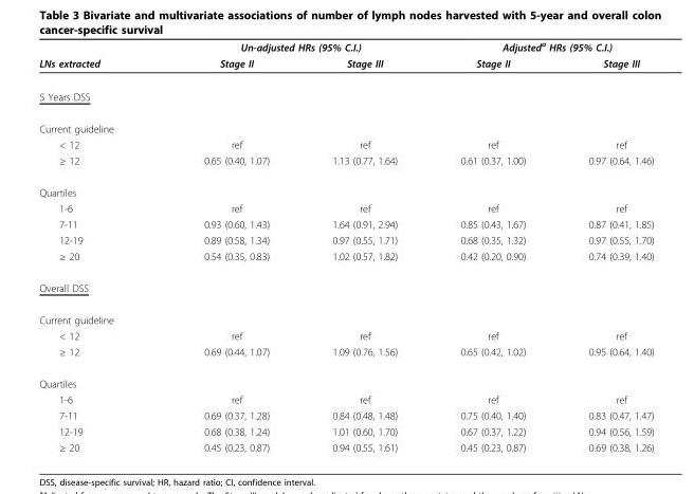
<table><thead><tr><td rowspan="2">LNs extracted</td><td colspan="2">Un-adjusted HRs (95% C.I.)</td><td colspan="2">Adjusted<sup>a</sup> HRs (95% C.I.)</td></tr><tr><td>Stage II</td><td>Stage III</td><td>Stage II</td><td>Stage III</td></tr></thead><tbody><tr><td colspan="5">5 Years DSS</td></tr><tr><td colspan="5">Current guideline</td></tr><tr><td>&lt; 12</td><td>ref</td><td>ref</td><td>ref</td><td>ref</td></tr><tr><td>≥ 12</td><td>0.65 (0.40, 1.07)</td><td>1.13 (0.77, 1.64)</td><td>0.61 (0.37, 1.00)</td><td>0.97 (0.64, 1.46)</td></tr><tr><td colspan="5">Quartiles</td></tr><tr><td>1-6</td><td>ref</td><td>ref</td><td>ref</td><td>ref</td></tr><tr><td>7-11</td><td>0.93 (0.60, 1.43)</td><td>1.64 (0.91, 2.94)</td><td>0.85 (0.43, 1.67)</td><td>0.87 (0.41, 1.85)</td></tr><tr><td>12-19</td><td>0.89 (0.58, 1.34)</td><td>0.97 (0.55, 1.71)</td><td>0.68 (0.35, 1.32)</td><td>0.97 (0.55, 1.70)</td></tr><tr><td>≥ 20</td><td>0.54 (0.35, 0.83)</td><td>1.02 (0.57, 1.82)</td><td>0.42 (0.20, 0.90)</td><td>0.74 (0.39, 1.40)</td></tr><tr><td colspan="5">Overall DSS</td></tr><tr><td colspan="5">Current guideline</td></tr><tr><td>&lt; 12</td><td>ref</td><td>ref</td><td>ref</td><td>ref</td></tr><tr><td>≥ 12</td><td>0.69 (0.44, 1.07)</td><td>1.09 (0.76, 1.56)</td><td>0.65 (0.42, 1.02)</td><td>0.95 (0.64, 1.40)</td></tr><tr><td colspan="5">Quartiles</td></tr><tr><td>1-6</td><td>ref</td><td>ref</td><td>ref</td><td>ref</td></tr><tr><td>7-11</td><td>0.69 (0.37, 1.28)</td><td>0.84 (0.48, 1.48)</td><td>0.75 (0.40, 1.40)</td><td>0.83 (0.47, 1.47)</td></tr><tr><td>12-19</td><td>0.68 (0.38, 1.24)</td><td>1.01 (0.60, 1.70)</td><td>0.67 (0.37, 1.22)</td><td>0.94 (0.56, 1.59)</td></tr><tr><td>≥ 20</td><td>0.45 (0.23, 0.87)</td><td>0.94 (0.55, 1.61)</td><td>0.45 (0.23, 0.87)</td><td>0.69 (0.38, 1.26)</td></tr></tbody></table>